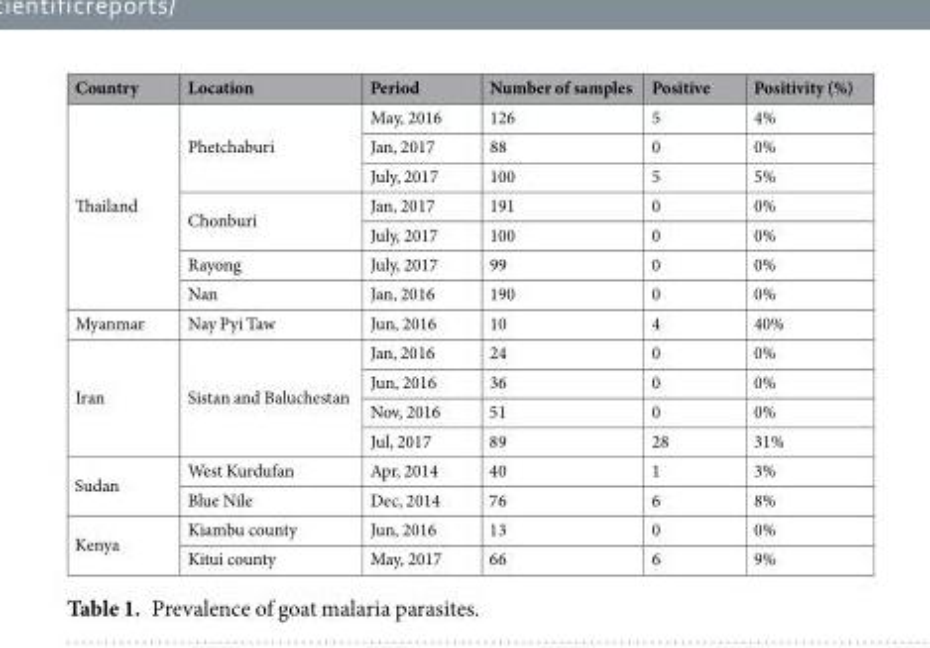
<table><thead><tr><td>Country</td><td>Location</td><td>Period</td><td>Number of samples</td><td>Positive</td><td>Positivity (%)</td></tr></thead><tbody><tr><td rowspan="7">Thailand</td><td rowspan="3">Phetchaburi</td><td>May, 2016</td><td>126</td><td>5</td><td>4%</td></tr><tr><td>Jan, 2017</td><td>88</td><td>0</td><td>0%</td></tr><tr><td>July, 2017</td><td>100</td><td>5</td><td>5%</td></tr><tr><td rowspan="2">Chonburi</td><td>Jan, 2017</td><td>191</td><td>0</td><td>0%</td></tr><tr><td>July, 2017</td><td>100</td><td>0</td><td>0%</td></tr><tr><td>Rayong</td><td>July, 2017</td><td>99</td><td>0</td><td>0%</td></tr><tr><td>Nan</td><td>Jan, 2016</td><td>190</td><td>0</td><td>0%</td></tr><tr><td>Myanmar</td><td>Nay Pyi Taw</td><td>Jun, 2016</td><td>10</td><td>4</td><td>40%</td></tr><tr><td rowspan="4">Iran</td><td rowspan="4">Sistan and Baluchestan</td><td>Jan, 2016</td><td>24</td><td>0</td><td>0%</td></tr><tr><td>Jun, 2016</td><td>36</td><td>0</td><td>0%</td></tr><tr><td>Nov, 2016</td><td>51</td><td>0</td><td>0%</td></tr><tr><td>Jul, 2017</td><td>89</td><td>28</td><td>31%</td></tr><tr><td rowspan="2">Sudan</td><td>West Kurdufan</td><td>Apr, 2014</td><td>40</td><td>1</td><td>3%</td></tr><tr><td>Blue Nile</td><td>Dec, 2014</td><td>76</td><td>6</td><td>8%</td></tr><tr><td rowspan="2">Kenya</td><td>Kiambu county</td><td>Jun, 2016</td><td>13</td><td>0</td><td>0%</td></tr><tr><td>Kitui county</td><td>May, 2017</td><td>66</td><td>6</td><td>9%</td></tr></tbody></table>